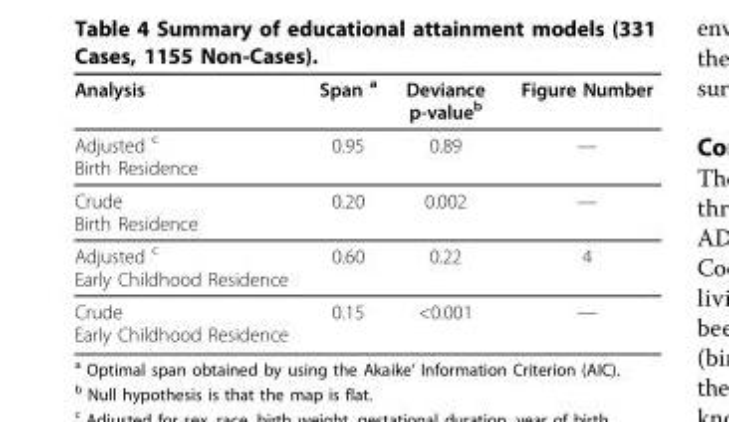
<table><thead><tr><td>Analysis</td><td>Span a</td><td>Deviance p-valueb</td><td>Figure Number</td></tr></thead><tbody><tr><td>Adjusted c Birth Residence</td><td>0.95</td><td>0.89</td><td>—</td></tr><tr><td>Crude Birth Residence</td><td>0.20</td><td>0.002</td><td>—</td></tr><tr><td>Adjusted c Early Childhood Residence</td><td>0.60</td><td>0.22</td><td>4</td></tr><tr><td>Crude Early Childhood Residence</td><td>0.15</td><td>&lt;0.001</td><td>—</td></tr></tbody></table>